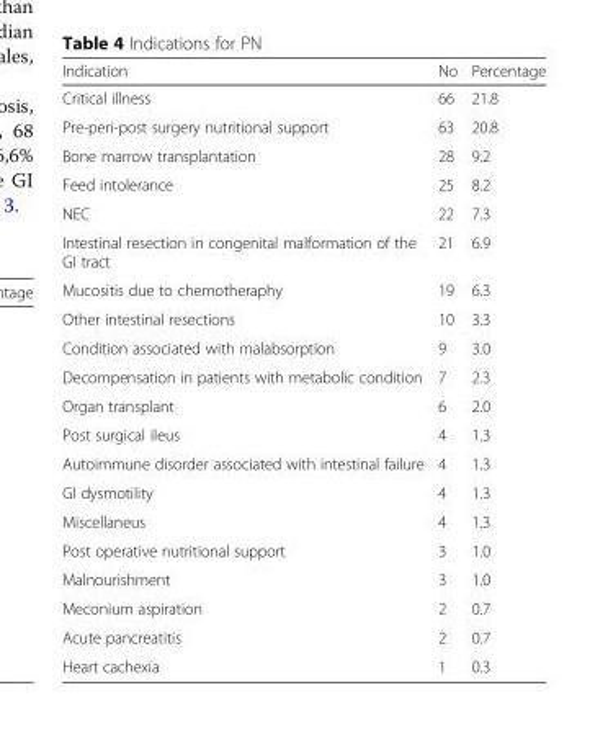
<table><thead><tr><td>Indication</td><td>No</td><td>Percentage</td></tr></thead><tbody><tr><td>Critical illness</td><td>66</td><td>21.8</td></tr><tr><td>Pre-peri-post surgery nutritional support</td><td>63</td><td>20.8</td></tr><tr><td>Bone marrow transplantation</td><td>28</td><td>9.2</td></tr><tr><td>Feed intolerance</td><td>25</td><td>8.2</td></tr><tr><td>NEC</td><td>22</td><td>7.3</td></tr><tr><td>Intestinal resection in congenital malformation of the GI tract</td><td>21</td><td>6.9</td></tr><tr><td>Mucositis due to chemotheraphy</td><td>19</td><td>6.3</td></tr><tr><td>Other intestinal resections</td><td>10</td><td>3.3</td></tr><tr><td>Condition associated with malabsorption</td><td>9</td><td>3.0</td></tr><tr><td>Decompensation in patients with metabolic condition</td><td>7</td><td>2.3</td></tr><tr><td>Organ transplant</td><td>6</td><td>2.0</td></tr><tr><td>Post surgical ileus</td><td>4</td><td>1.3</td></tr><tr><td>Autoimmune disorder associated with intestinal failure</td><td>4</td><td>1.3</td></tr><tr><td>GI dysmotility</td><td>4</td><td>1.3</td></tr><tr><td>Miscellaneus</td><td>4</td><td>1.3</td></tr><tr><td>Post operative nutritional support</td><td>3</td><td>1.0</td></tr><tr><td>Malnourishment</td><td>3</td><td>1.0</td></tr><tr><td>Meconium aspiration</td><td>2</td><td>0.7</td></tr><tr><td>Acute pancreatitis</td><td>2</td><td>0.7</td></tr><tr><td>Heart cachexia</td><td>1</td><td>0.3</td></tr></tbody></table>